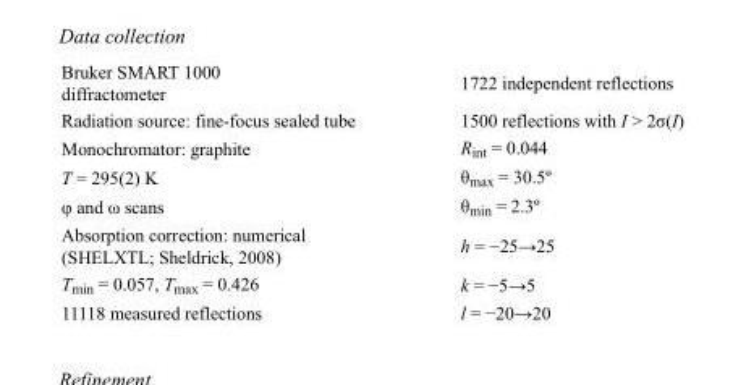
<table><tbody><tr><td>Bruker SMART 1000 diffractometer</td><td>1722 independent reflections</td></tr><tr><td>Radiation source: fine-focus sealed tube</td><td>1500 reflections with I &gt; 2σ(I)</td></tr><tr><td>Monochromator: graphite</td><td>R<sub>int</sub> = 0.044</td></tr><tr><td>T = 295(2) K</td><td>θ<sub>max</sub> = 30.5º</td></tr><tr><td>φ and ω scans</td><td>θ<sub>min</sub> = 2.3º</td></tr><tr><td>Absorption correction: numerical (SHELXTL; Sheldrick, 2008)</td><td>h = −25→25</td></tr><tr><td>T<sub>min</sub> = 0.057, T<sub>max</sub> = 0.426</td><td>k = −5→5</td></tr><tr><td>11118 measured reflections</td><td>l = −20→20</td></tr></tbody></table>